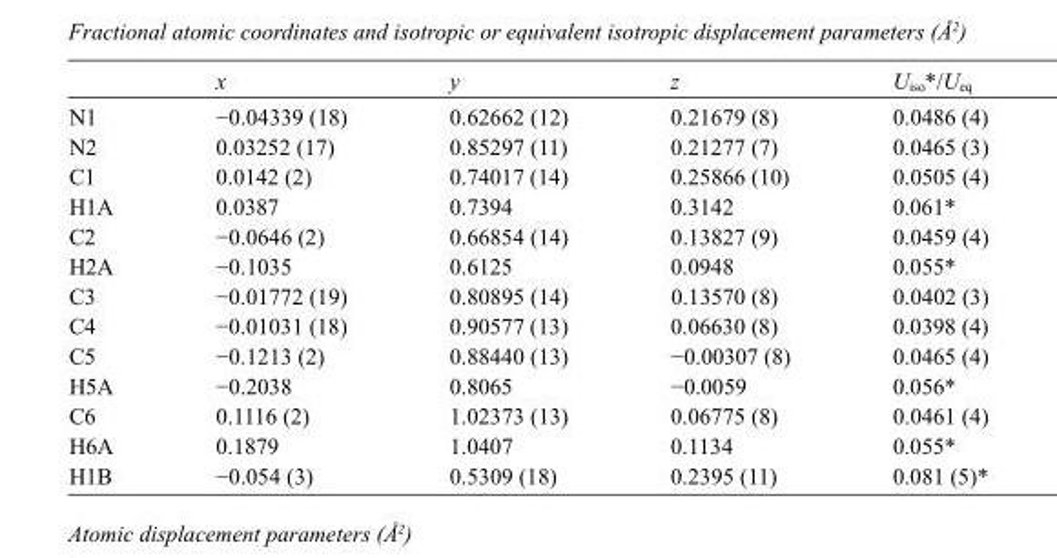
<table><thead><tr><td></td><td>x</td><td>y</td><td>z</td><td>U<sub>iso</sub>*/U<sub>eq</sub></td></tr></thead><tbody><tr><td>N1</td><td>−0.04339 (18)</td><td>0.62662 (12)</td><td>0.21679 (8)</td><td>0.0486 (4)</td></tr><tr><td>N2</td><td>0.03252 (17)</td><td>0.85297 (11)</td><td>0.21277 (7)</td><td>0.0465 (3)</td></tr><tr><td>C1</td><td>0.0142 (2)</td><td>0.74017 (14)</td><td>0.25866 (10)</td><td>0.0505 (4)</td></tr><tr><td>H1A</td><td>0.0387</td><td>0.7394</td><td>0.3142</td><td>0.061*</td></tr><tr><td>C2</td><td>−0.0646 (2)</td><td>0.66854 (14)</td><td>0.13827 (9)</td><td>0.0459 (4)</td></tr><tr><td>H2A</td><td>−0.1035</td><td>0.6125</td><td>0.0948</td><td>0.055*</td></tr><tr><td>C3</td><td>−0.01772 (19)</td><td>0.80895 (14)</td><td>0.13570 (8)</td><td>0.0402 (3)</td></tr><tr><td>C4</td><td>−0.01031 (18)</td><td>0.90577 (13)</td><td>0.06630 (8)</td><td>0.0398 (4)</td></tr><tr><td>C5</td><td>−0.1213 (2)</td><td>0.88440 (13)</td><td>−0.00307 (8)</td><td>0.0465 (4)</td></tr><tr><td>H5A</td><td>−0.2038</td><td>0.8065</td><td>−0.0059</td><td>0.056*</td></tr><tr><td>C6</td><td>0.1116 (2)</td><td>1.02373 (13)</td><td>0.06775 (8)</td><td>0.0461 (4)</td></tr><tr><td>H6A</td><td>0.1879</td><td>1.0407</td><td>0.1134</td><td>0.055*</td></tr><tr><td>H1B</td><td>−0.054 (3)</td><td>0.5309 (18)</td><td>0.2395 (11)</td><td>0.081 (5)*</td></tr></tbody></table>